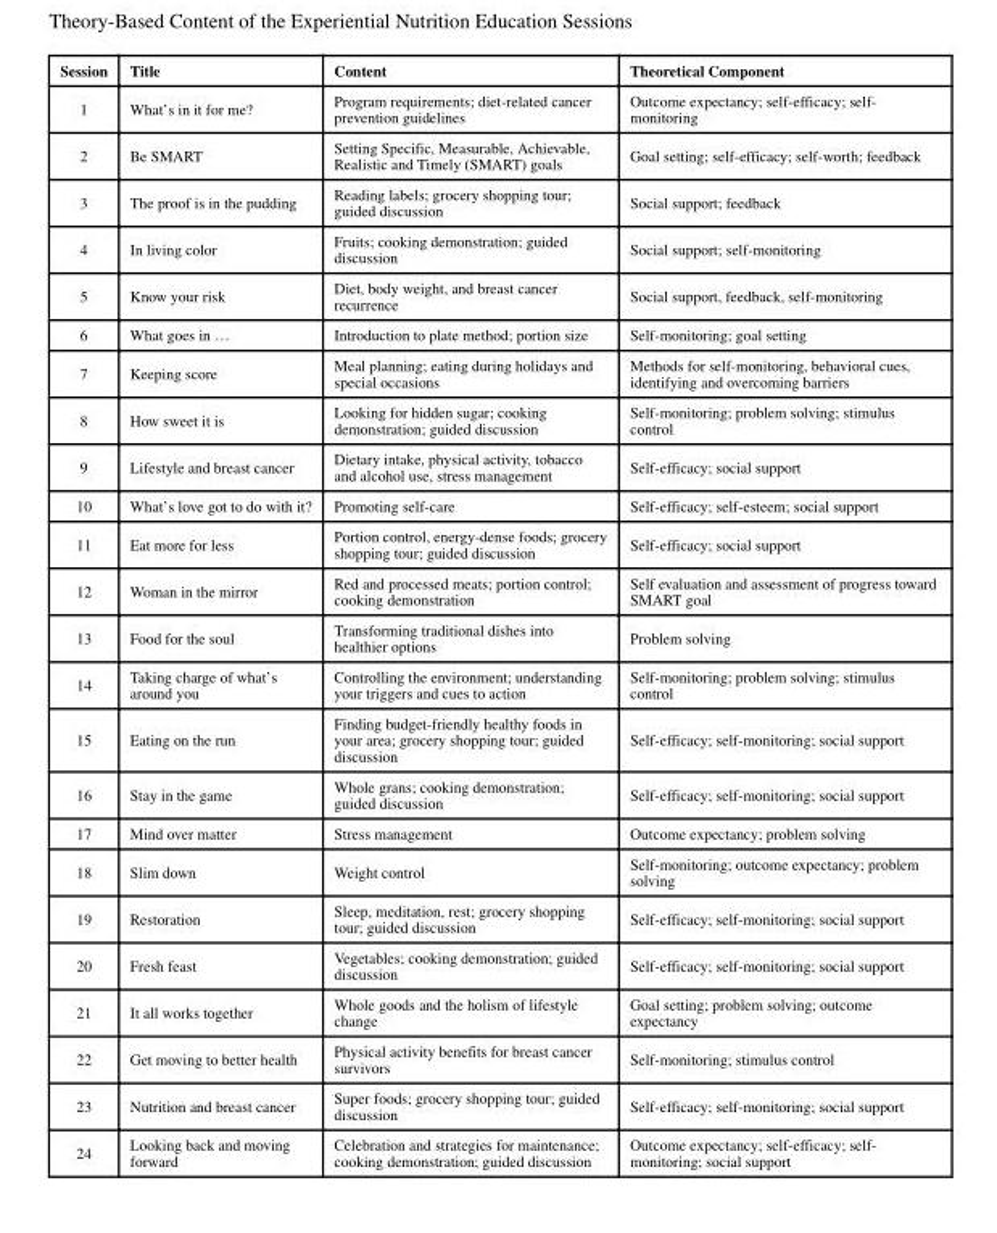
<table><thead><tr><td>Session</td><td>Title</td><td>Content</td><td>Theoretical Component</td></tr></thead><tbody><tr><td>1</td><td>What’s in it for me?</td><td>Program requirements; diet-related cancer prevention guidelines</td><td>Outcome expectancy; self-efficacy; self- monitoring</td></tr><tr><td>2</td><td>Be SMART</td><td>Setting Specific, Measurable, Achievable, Realistic and Timely (SMART) goals</td><td>Goal setting; self-efficacy; self-worth; feedback</td></tr><tr><td>3</td><td>The proof is in the pudding</td><td>Reading labels; grocery shopping tour; guided discussion</td><td>Social support; feedback</td></tr><tr><td>4</td><td>In living color</td><td>Fruits; cooking demonstration; guided discussion</td><td>Social support; self-monitoring</td></tr><tr><td>5</td><td>Know your risk</td><td>Diet, body weight, and breast cancer recurrence</td><td>Social support, feedback, self-monitoring</td></tr><tr><td>6</td><td>What goes in …</td><td>Introduction to plate method; portion size</td><td>Self-monitoring; goal setting</td></tr><tr><td>7</td><td>Keeping score</td><td>Meal planning; eating during holidays and special occasions</td><td>Methods for self-monitoring, behavioral cues, identifying and overcoming barriers</td></tr><tr><td>8</td><td>How sweet it is</td><td>Looking for hidden sugar; cooking demonstration; guided discussion</td><td>Self-monitoring; problem solving; stimulus control</td></tr><tr><td>9</td><td>Lifestyle and breast cancer</td><td>Dietary intake, physical activity, tobacco and alcohol use, stress management</td><td>Self-efficacy; social support</td></tr><tr><td>10</td><td>What’s love got to do with it?</td><td>Promoting self-care</td><td>Self-efficacy; self-esteem; social support</td></tr><tr><td>11</td><td>Eat more for less</td><td>Portion control, energy-dense foods; grocery shopping tour; guided discussion</td><td>Self-efficacy; social support</td></tr><tr><td>12</td><td>Woman in the mirror</td><td>Red and processed meats; portion control; cooking demonstration</td><td>Self evaluation and assessment of progress toward SMART goal</td></tr><tr><td>13</td><td>Food for the soul</td><td>Transforming traditional dishes into healthier options</td><td>Problem solving</td></tr><tr><td>14</td><td>Taking charge of what’s around you</td><td>Controlling the environment; understanding your triggers and cues to action</td><td>Self-monitoring; problem solving; stimulus control</td></tr><tr><td>15</td><td>Eating on the run</td><td>Finding budget-friendly healthy foods in your area; grocery shopping tour; guided discussion</td><td>Self-efficacy; self-monitoring; social support</td></tr><tr><td>16</td><td>Stay in the game</td><td>Whole grans; cooking demonstration; guided discussion</td><td>Self-efficacy; self-monitoring; social support</td></tr><tr><td>17</td><td>Mind over matter</td><td>Stress management</td><td>Outcome expectancy; problem solving</td></tr><tr><td>18</td><td>Slim down</td><td>Weight control</td><td>Self-monitoring; outcome expectancy; problem solving</td></tr><tr><td>19</td><td>Restoration</td><td>Sleep, meditation, rest; grocery shopping tour; guided discussion</td><td>Self-efficacy; self-monitoring; social support</td></tr><tr><td>20</td><td>Fresh feast</td><td>Vegetables; cooking demonstration; guided discussion</td><td>Self-efficacy; self-monitoring; social support</td></tr><tr><td>21</td><td>It all works together</td><td>Whole goods and the holism of lifestyle change</td><td>Goal setting; problem solving; outcome expectancy</td></tr><tr><td>22</td><td>Get moving to better health</td><td>Physical activity benefits for breast cancer survivors</td><td>Self-monitoring; stimulus control</td></tr><tr><td>23</td><td>Nutrition and breast cancer</td><td>Super foods; grocery shopping tour; guided discussion</td><td>Self-efficacy; self-monitoring; social support</td></tr><tr><td>24</td><td>Looking back and moving forward</td><td>Celebration and strategies for maintenance; cooking demonstration; guided discussion</td><td>Outcome expectancy; self-efficacy; self- monitoring; social support</td></tr></tbody></table>